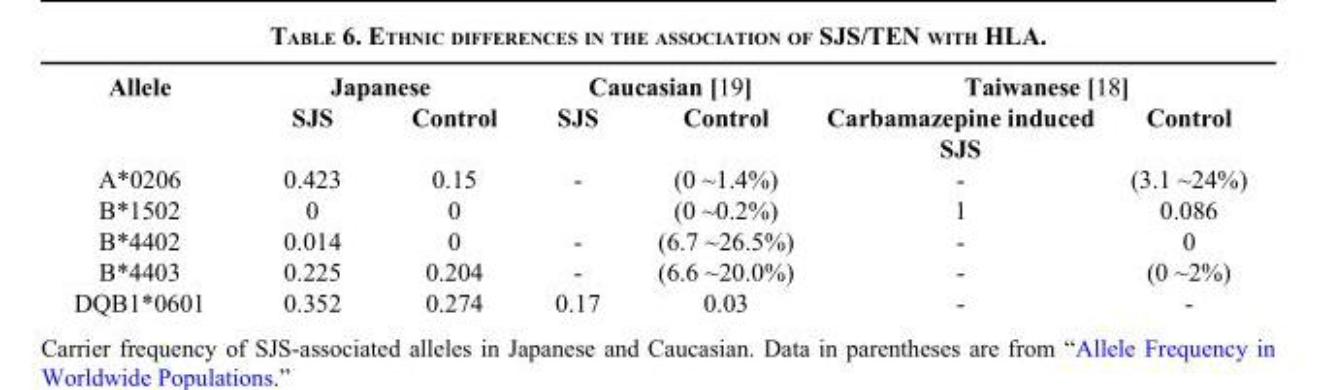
<table><tbody><tr><td rowspan="2">Allele</td><td colspan="2">Japanese</td><td colspan="2">Caucasian [19]</td><td colspan="2">Taiwanese [18]</td></tr><tr><td>SJS</td><td>Control</td><td>SJS</td><td>Control</td><td>Carbamazepine induced SJS</td><td>Control</td></tr><tr><td>A*0206</td><td>0.423</td><td>0.15</td><td>-</td><td>(0 ~1.4%)</td><td>-</td><td>(3.1 ~24%)</td></tr><tr><td>B*1502</td><td>0</td><td>0</td><td></td><td>(0 ~0.2%)</td><td>1</td><td>0.086</td></tr><tr><td>B*4402</td><td>0.014</td><td>0</td><td>-</td><td>(6.7 ~26.5%)</td><td>-</td><td>0</td></tr><tr><td>B*4403</td><td>0.225</td><td>0.204</td><td>-</td><td>(6.6 ~20.0%)</td><td>-</td><td>(0 ~2%)</td></tr><tr><td>DQB1*0601</td><td>0.352</td><td>0.274</td><td>0.17</td><td>0.03</td><td>-</td><td>-</td></tr></tbody></table>